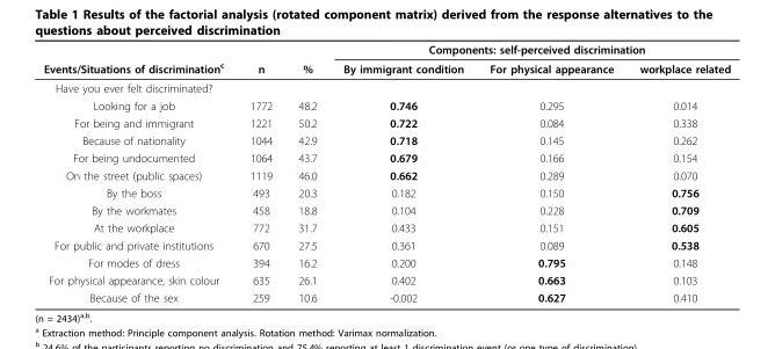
<table><thead><tr><td rowspan="2">Events/Situations of discrimination<sup>c</sup></td><td rowspan="2">n</td><td rowspan="2">%</td><td colspan="3">Components: self-perceived discrimination</td></tr><tr><td>By immigrant condition</td><td>For physical appearance</td><td>workplace related</td></tr></thead><tbody><tr><td colspan="6">Have you ever felt discriminated?</td></tr><tr><td>Looking for a job</td><td>1772</td><td>48.2</td><td>0.746</td><td>0.295</td><td>0.014</td></tr><tr><td>For being and immigrant</td><td>1221</td><td>50.2</td><td>0.722</td><td>0.084</td><td>0.338</td></tr><tr><td>Because of nationality</td><td>1044</td><td>42.9</td><td>0.718</td><td>0.145</td><td>0.262</td></tr><tr><td>For being undocumented</td><td>1064</td><td>43.7</td><td>0.679</td><td>0.166</td><td>0.154</td></tr><tr><td>On the street (public spaces)</td><td>1119</td><td>46.0</td><td>0.662</td><td>0.289</td><td>0.070</td></tr><tr><td>By the boss</td><td>493</td><td>20.3</td><td>0.182</td><td>0.150</td><td>0.756</td></tr><tr><td>By the workmates</td><td>458</td><td>18.8</td><td>0.104</td><td>0.228</td><td>0.709</td></tr><tr><td>At the workplace</td><td>772</td><td>31.7</td><td>0.433</td><td>0.151</td><td>0.605</td></tr><tr><td>For public and private institutions</td><td>670</td><td>27.5</td><td>0.361</td><td>0.089</td><td>0.538</td></tr><tr><td>For modes of dress</td><td>394</td><td>16.2</td><td>0.200</td><td>0.795</td><td>0.148</td></tr><tr><td>For physical appearance, skin colour</td><td>635</td><td>26.1</td><td>0.402</td><td>0.663</td><td>0.103</td></tr><tr><td>Because of the sex</td><td>259</td><td>10.6</td><td>-0.002</td><td>0.627</td><td>0.410</td></tr></tbody></table>